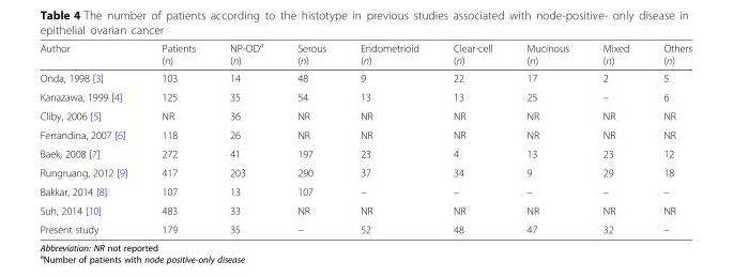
<table><thead><tr><td>Author</td><td>Patients (n)</td><td>NP-OD<sup>a</sup> (n)</td><td>Serous (n)</td><td>Endometrioid (n)</td><td>Clear-cell (n)</td><td>Mucinous (n)</td><td>Mixed (n)</td><td>Others (n)</td></tr></thead><tbody><tr><td>Onda, 1998 [3]</td><td>103</td><td>14</td><td>48</td><td>9</td><td>22</td><td>17</td><td>2</td><td>5</td></tr><tr><td>Kanazawa, 1999 [4]</td><td>125</td><td>35</td><td>54</td><td>13</td><td>13</td><td>25</td><td>–</td><td>6</td></tr><tr><td>Cliby, 2006 [5]</td><td>NR</td><td>36</td><td>NR</td><td>NR</td><td>NR</td><td>NR</td><td>NR</td><td>NR</td></tr><tr><td>Ferrandina, 2007 [6]</td><td>118</td><td>26</td><td>NR</td><td>NR</td><td>NR</td><td>NR</td><td>NR</td><td>NR</td></tr><tr><td>Baek, 2008 [7]</td><td>272</td><td>41</td><td>197</td><td>23</td><td>4</td><td>13</td><td>23</td><td>12</td></tr><tr><td>Rungruang, 2012 [9]</td><td>417</td><td>203</td><td>290</td><td>37</td><td>34</td><td>9</td><td>29</td><td>18</td></tr><tr><td>Bakkar, 2014 [8]</td><td>107</td><td>13</td><td>107</td><td>–</td><td>–</td><td>–</td><td>–</td><td>–</td></tr><tr><td>Suh, 2014 [10]</td><td>483</td><td>33</td><td>NR</td><td>NR</td><td>NR</td><td>NR</td><td>NR</td><td>NR</td></tr><tr><td>Present study</td><td>179</td><td>35</td><td>–</td><td>52</td><td>48</td><td>47</td><td>32</td><td>–</td></tr></tbody></table>